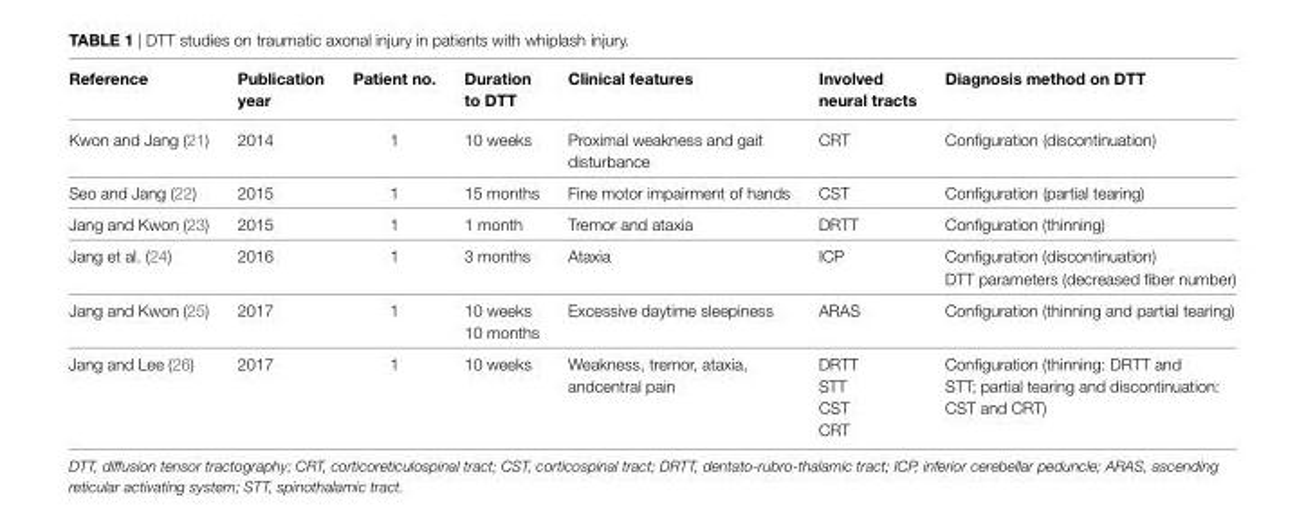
<table><thead><tr><td>Reference</td><td>Publication year</td><td>Patient no.</td><td>Duration to DTT</td><td>Clinical features</td><td>involved neural tracts</td><td>Diagnosis method on DTT</td></tr></thead><tbody><tr><td>Kwon and Jang (21)</td><td>2014</td><td>1</td><td>10 weeks</td><td>Proximal weakness and gait disturbance</td><td>CRT</td><td>Configuration (discontinuation)</td></tr><tr><td>Seo and Jang (22)</td><td>2015</td><td>1</td><td>15 months</td><td>Fine motor impairment of hands</td><td>CST</td><td>Configuration (partial tearing)</td></tr><tr><td>Jang and Kwon (23)</td><td>2015</td><td>1</td><td>1 month</td><td>Tremor and ataxia</td><td>DRTT</td><td>Configuration (thinning)</td></tr><tr><td rowspan="2">Jang et al. (24)</td><td rowspan="2">2016</td><td rowspan="2">1</td><td rowspan="2">3 months</td><td rowspan="2">Ataxia</td><td rowspan="2">ICP</td><td>Configuration (discontinuation)</td></tr><tr><td>DTT parameters (decreased fiber number)</td></tr><tr><td rowspan="2">Jang and Kwon (25)</td><td rowspan="2">2017</td><td rowspan="2">1</td><td>10 weeks</td><td rowspan="2">Excessive daytime sleepiness</td><td rowspan="2">ARAS</td><td rowspan="2">Configuration (thinning and partial tearing)</td></tr><tr><td>10 months</td></tr><tr><td rowspan="4">Jang and Lee (26)</td><td rowspan="4">2017</td><td rowspan="4">1</td><td rowspan="4">10 weeks</td><td rowspan="4">Weakness, tremor, ataxia, andcentral pain</td><td>DRTT</td><td rowspan="4">Configuration (thinning: DRTT and STT; partial tearing and discontinuation: CST and CRT)</td></tr><tr><td>STT</td></tr><tr><td>CST</td></tr><tr><td>CRT</td></tr></tbody></table>